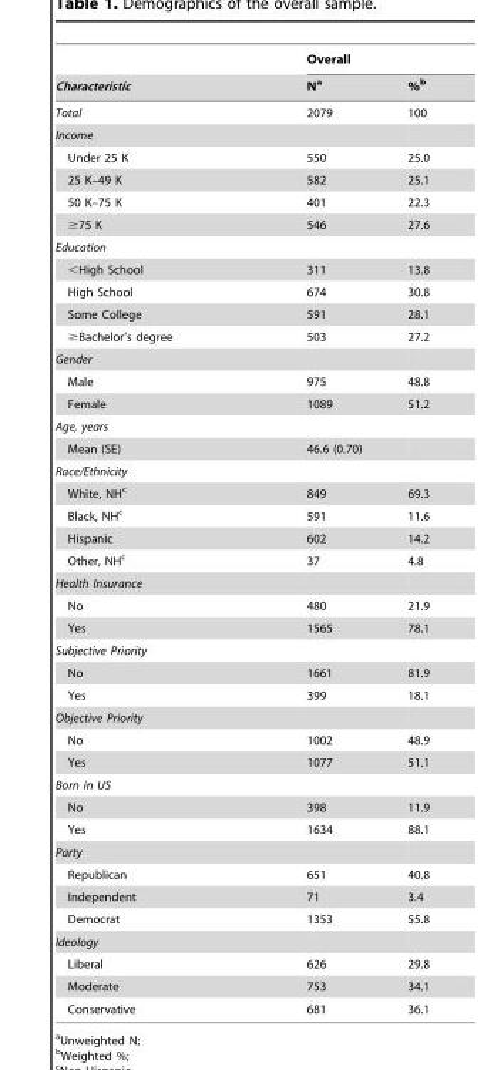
<table><thead><tr><td rowspan="2">Characteristic</td><td colspan="2">Overall</td></tr><tr><td>N<sup>a</sup></td><td>%<sup>b</sup></td></tr></thead><tbody><tr><td>Total</td><td>2079</td><td>100</td></tr><tr><td colspan="3">Income</td></tr><tr><td>Under 25 K</td><td>550</td><td>25.0</td></tr><tr><td>25 K–49 K</td><td>582</td><td>25.1</td></tr><tr><td>50 K–75 K</td><td>401</td><td>22.3</td></tr><tr><td>≥75 K</td><td>546</td><td>27.6</td></tr><tr><td colspan="3">Education</td></tr><tr><td>&lt;High School</td><td>311</td><td>13.8</td></tr><tr><td>High School</td><td>674</td><td>30.8</td></tr><tr><td>Some College</td><td>591</td><td>28.1</td></tr><tr><td>≥Bachelor’s degree</td><td>503</td><td>27.2</td></tr><tr><td colspan="3">Gender</td></tr><tr><td>Male</td><td>975</td><td>48.8</td></tr><tr><td>Female</td><td>1089</td><td>51.2</td></tr><tr><td colspan="3">Age, years</td></tr><tr><td>Mean (SE)</td><td>46.6 (0.70)</td><td></td></tr><tr><td colspan="3">Race/Ethnicity</td></tr><tr><td>White, NH<sup>c</sup></td><td>849</td><td>69.3</td></tr><tr><td>Black, NH<sup>c</sup></td><td>591</td><td>11.6</td></tr><tr><td>Hispanic</td><td>602</td><td>14.2</td></tr><tr><td>Other, NH<sup>c</sup></td><td>37</td><td>4.8</td></tr><tr><td colspan="3">Health Insurance</td></tr><tr><td>No</td><td>480</td><td>21.9</td></tr><tr><td>Yes</td><td>1565</td><td>78.1</td></tr><tr><td colspan="3">Subjective Priority</td></tr><tr><td>No</td><td>1661</td><td>81.9</td></tr><tr><td>Yes</td><td>399</td><td>18.1</td></tr><tr><td colspan="3">Objective Priority</td></tr><tr><td>No</td><td>1002</td><td>48.9</td></tr><tr><td>Yes</td><td>1077</td><td>51.1</td></tr><tr><td colspan="3">Born in US</td></tr><tr><td>No</td><td>398</td><td>11.9</td></tr><tr><td>Yes</td><td>1634</td><td>88.1</td></tr><tr><td colspan="3">Party</td></tr><tr><td>Republican</td><td>651</td><td>40.8</td></tr><tr><td>Independent</td><td>71</td><td>3.4</td></tr><tr><td>Democrat</td><td>1353</td><td>55.8</td></tr><tr><td colspan="3">Ideology</td></tr><tr><td>Liberal</td><td>626</td><td>29.8</td></tr><tr><td>Moderate</td><td>753</td><td>34.1</td></tr><tr><td>Conservative</td><td>681</td><td>36.1</td></tr></tbody></table>